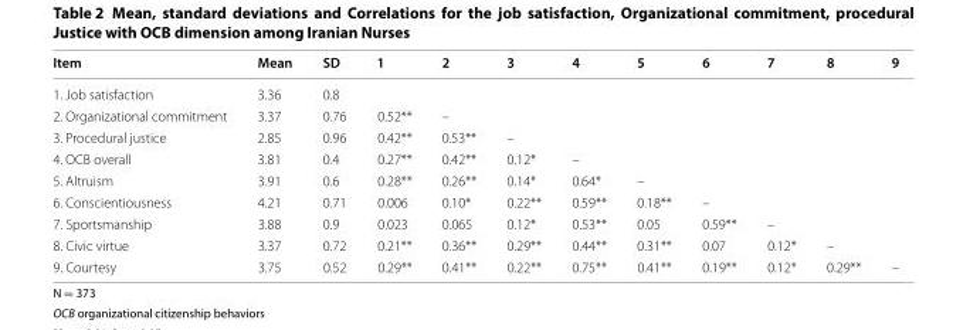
<table><thead><tr><td>Item</td><td>Mean</td><td>SD</td><td>1</td><td>2</td><td>3</td><td>4</td><td>5</td><td>6</td><td>7</td><td>8</td><td>9</td></tr></thead><tbody><tr><td>1. Job satisfaction</td><td>3.36</td><td>0.8</td><td></td><td></td><td></td><td></td><td></td><td></td><td></td><td></td><td></td></tr><tr><td>2. Organizational commitment</td><td>3.37</td><td>0.76</td><td>0.52**</td><td>–</td><td></td><td></td><td></td><td></td><td></td><td></td><td></td></tr><tr><td>3. Procedural justice</td><td>2.85</td><td>0.96</td><td>0.42**</td><td>0.53**</td><td>–</td><td></td><td></td><td></td><td></td><td></td><td></td></tr><tr><td>4. OCB overall</td><td>3.81</td><td>0.4</td><td>0.27**</td><td>0.42**</td><td>0.12*</td><td>–</td><td></td><td></td><td></td><td></td><td></td></tr><tr><td>5. Altruism</td><td>3.91</td><td>0.6</td><td>0.28**</td><td>0.26**</td><td>0.14*</td><td>0.64*</td><td>–</td><td></td><td></td><td></td><td></td></tr><tr><td>6. Conscientiousness</td><td>4.21</td><td>0.71</td><td>0.006</td><td>0.10*</td><td>0.22**</td><td>0.59**</td><td>0.18**</td><td>–</td><td></td><td></td><td></td></tr><tr><td>7. Sportsmanship</td><td>3.88</td><td>0.9</td><td>0.023</td><td>0.065</td><td>0.12*</td><td>0.53**</td><td>0.05</td><td>0.59**</td><td>–</td><td></td><td></td></tr><tr><td>8. Civic virtue</td><td>3.37</td><td>0.72</td><td>0.21**</td><td>0.36**</td><td>0.29**</td><td>0.44**</td><td>0.31**</td><td>0.07</td><td>0.12*</td><td>–</td><td></td></tr><tr><td>9. Courtesy</td><td>3.75</td><td>0.52</td><td>0.29**</td><td>0.41**</td><td>0.22**</td><td>0.75**</td><td>0.41**</td><td>0.19**</td><td>0.12*</td><td>0.29**</td><td>–</td></tr></tbody></table>